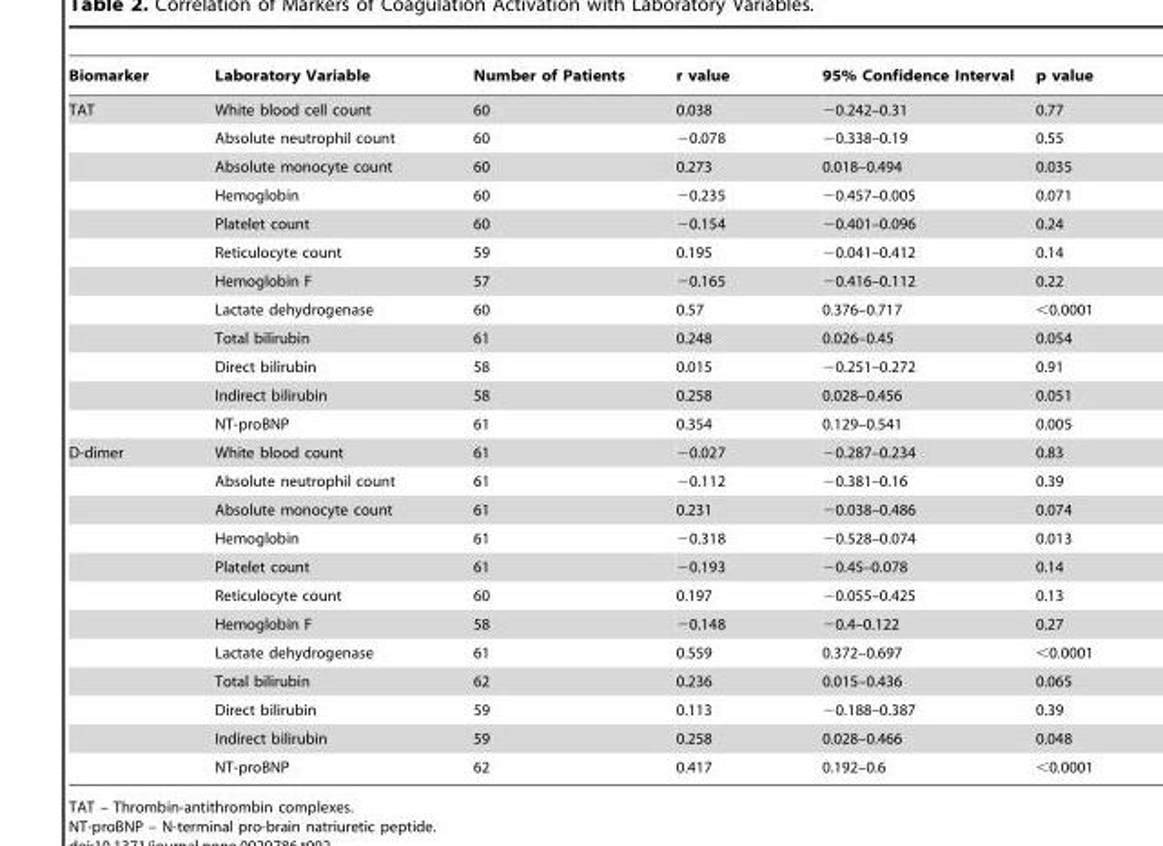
<table><thead><tr><td>Biomarker</td><td>Laboratory Variable</td><td>Number of Patients</td><td>r value</td><td>95% Confidence Interval</td><td>p value</td></tr></thead><tbody><tr><td rowspan="12">TAT</td><td>White blood cell count</td><td>60</td><td>0.038</td><td>−0.242–0.31</td><td>0.77</td></tr><tr><td>Absolute neutrophil count</td><td>60</td><td>−0.078</td><td>−0.338–0.19</td><td>0.55</td></tr><tr><td>Absolute monocyte count</td><td>60</td><td>0.273</td><td>0.018–0.494</td><td>0.035</td></tr><tr><td>Hemoglobin</td><td>60</td><td>−0.235</td><td>−0.457–0.005</td><td>0.071</td></tr><tr><td>Platelet count</td><td>60</td><td>−0.154</td><td>−0.401–0.096</td><td>0.24</td></tr><tr><td>Reticulocyte count</td><td>59</td><td>0.195</td><td>−0.041–0.412</td><td>0.14</td></tr><tr><td>Hemoglobin F</td><td>57</td><td>−0.165</td><td>−0.416–0.112</td><td>0.22</td></tr><tr><td>Lactate dehydrogenase</td><td>60</td><td>0.57</td><td>0.376–0.717</td><td>&lt;0.0001</td></tr><tr><td>Total bilirubin</td><td>61</td><td>0.248</td><td>0.026–0.45</td><td>0.054</td></tr><tr><td>Direct bilirubin</td><td>58</td><td>0.015</td><td>−0.251–0.272</td><td>0.91</td></tr><tr><td>Indirect bilirubin</td><td>58</td><td>0.258</td><td>0.028–0.456</td><td>0.051</td></tr><tr><td>NT-proBNP</td><td>61</td><td>0.354</td><td>0.129–0.541</td><td>0.005</td></tr><tr><td rowspan="12">D-dimer</td><td>White blood count</td><td>61</td><td>−0.027</td><td>−0.287–0.234</td><td>0.83</td></tr><tr><td>Absolute neutrophil count</td><td>61</td><td>−0.112</td><td>−0.381–0.16</td><td>0.39</td></tr><tr><td>Absolute monocyte count</td><td>61</td><td>0.231</td><td>−0.038–0.486</td><td>0.074</td></tr><tr><td>Hemoglobin</td><td>61</td><td>−0.318</td><td>−0.528–0.074</td><td>0.013</td></tr><tr><td>Platelet count</td><td>61</td><td>−0.193</td><td>−0.45–0.078</td><td>0.14</td></tr><tr><td>Reticulocyte count</td><td>60</td><td>0.197</td><td>−0.055–0.425</td><td>0.13</td></tr><tr><td>Hemoglobin F</td><td>58</td><td>−0.148</td><td>−0.4–0.122</td><td>0.27</td></tr><tr><td>Lactate dehydrogenase</td><td>61</td><td>0.559</td><td>0.372–0.697</td><td>&lt;0.0001</td></tr><tr><td>Total bilirubin</td><td>62</td><td>0.236</td><td>0.015–0.436</td><td>0.065</td></tr><tr><td>Direct bilirubin</td><td>59</td><td>0.113</td><td>−0.188–0.387</td><td>0.39</td></tr><tr><td>Indirect bilirubin</td><td>59</td><td>0.258</td><td>0.028–0.466</td><td>0.048</td></tr><tr><td>NT-proBNP</td><td>62</td><td>0.417</td><td>0.192–0.6</td><td>&lt;0.0001</td></tr></tbody></table>